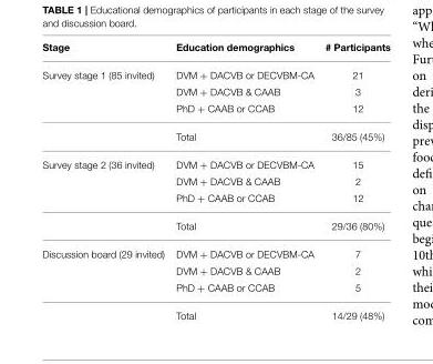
<table><thead><tr><td>Stage</td><td>Education demographics</td><td># Participants</td></tr></thead><tbody><tr><td rowspan="4">Survey stage 1 (85 invited)</td><td>DVM + DACVB or DECVBM-CA</td><td>21</td></tr><tr><td>DVM + DACVB &amp; CAAB</td><td>3</td></tr><tr><td>PhD + CAAB or CCAB</td><td>12</td></tr><tr><td>Total</td><td>36/85 (45%)</td></tr><tr><td rowspan="4">Survey stage 2 (36 invited)</td><td>DVM + DACVB or DECVBM-CA</td><td>15</td></tr><tr><td>DVM + DACVB &amp; CAAB</td><td>2</td></tr><tr><td>PhD + CAAB or CCAB</td><td>12</td></tr><tr><td>Total</td><td>29/36 (80%)</td></tr><tr><td rowspan="4">Discussion board (29 invited)</td><td>DVM + DACVB or DECVBM-CA</td><td>7</td></tr><tr><td>DVM + DACVB &amp; CAAB</td><td>2</td></tr><tr><td>PhD + CAAB or CCAB</td><td>5</td></tr><tr><td>Total</td><td>14/29 (48%)</td></tr></tbody></table>